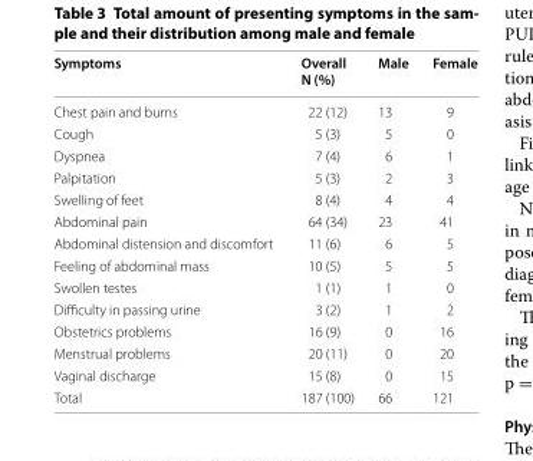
<table><thead><tr><td>Symptoms</td><td>Overall N (%)</td><td>Male</td><td>Female</td></tr></thead><tbody><tr><td>Chest pain and burns</td><td>22 (12)</td><td>13</td><td>9</td></tr><tr><td>Cough</td><td>5 (3)</td><td>5</td><td>0</td></tr><tr><td>Dyspnea</td><td>7 (4)</td><td>6</td><td>1</td></tr><tr><td>Palpitation</td><td>5 (3)</td><td>2</td><td>3</td></tr><tr><td>Swelling of feet</td><td>8 (4)</td><td>4</td><td>4</td></tr><tr><td>Abdominal pain</td><td>64 (34)</td><td>23</td><td>41</td></tr><tr><td>Abdominal distension and discomfort</td><td>11 (6)</td><td>6</td><td>5</td></tr><tr><td>Feeling of abdominal mass</td><td>10 (5)</td><td>5</td><td>5</td></tr><tr><td>Swollen testes</td><td>1 (1)</td><td>1</td><td>0</td></tr><tr><td>Difficulty in passing urine</td><td>3 (2)</td><td>1</td><td>2</td></tr><tr><td>Obstetrics problems</td><td>16 (9)</td><td>0</td><td>16</td></tr><tr><td>Menstrual problems</td><td>20 (11)</td><td>0</td><td>20</td></tr><tr><td>Vaginal discharge</td><td>15 (8)</td><td>0</td><td>15</td></tr><tr><td>Total</td><td>187 (100)</td><td>66</td><td>121</td></tr></tbody></table>